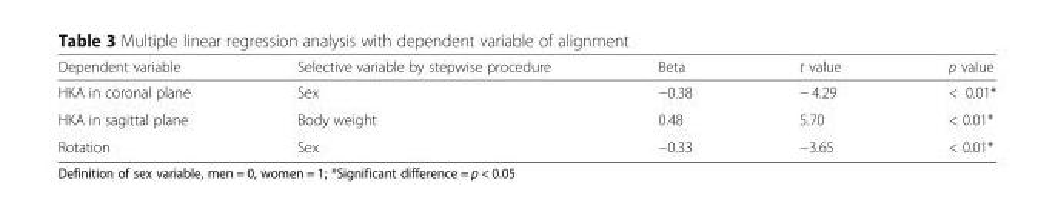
<table><thead><tr><td>Dependent variable</td><td>Selective variable by stepwise procedure</td><td>Beta</td><td>t value</td><td>p value</td></tr></thead><tbody><tr><td>HKA in coronal plane</td><td>Sex</td><td>−0.38</td><td>− 4.29</td><td>&lt; 0.01*</td></tr><tr><td>HKA in sagittal plane</td><td>Body weight</td><td>0.48</td><td>5.70</td><td>&lt; 0.01*</td></tr><tr><td>Rotation</td><td>Sex</td><td>−0.33</td><td>−3.65</td><td>&lt; 0.01*</td></tr></tbody></table>